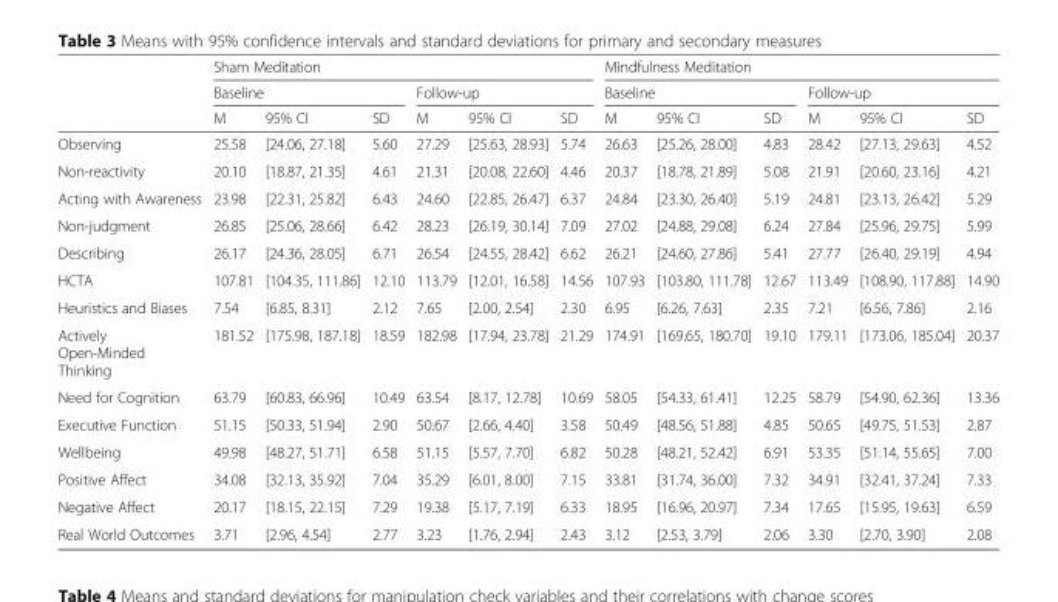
<table><thead><tr><td rowspan="3"></td><td colspan="6">Sham Meditation</td><td colspan="6">Mindfulness Meditation</td></tr><tr><td colspan="3">Baseline</td><td colspan="3">Follow-up</td><td colspan="3">Baseline</td><td colspan="3">Follow-up</td></tr><tr><td>M</td><td>95% CI</td><td>SD</td><td>M</td><td>95% CI</td><td>SD</td><td>M</td><td>95% CI</td><td>SD</td><td>M</td><td>95% CI</td><td>SD</td></tr></thead><tbody><tr><td>Observing</td><td>25.58</td><td>[24.06, 27.18]</td><td>5.60</td><td>27.29</td><td>[25.63, 28.93]</td><td>5.74</td><td>26.63</td><td>[25.26, 28.00]</td><td>4.83</td><td>28.42</td><td>[27.13, 29.63]</td><td>4.52</td></tr><tr><td>Non-reactivity</td><td>20.10</td><td>[18.87, 21.35]</td><td>4.61</td><td>21.31</td><td>[20.08, 22.60]</td><td>4.46</td><td>20.37</td><td>[18.78, 21.89]</td><td>5.08</td><td>21.91</td><td>[20.60, 23.16]</td><td>4.21</td></tr><tr><td>Acting with Awareness</td><td>23.98</td><td>[22.31, 25.82]</td><td>6.43</td><td>24.60</td><td>[22.85, 26.47]</td><td>6.37</td><td>24.84</td><td>[23.30, 26.40]</td><td>5.19</td><td>24.81</td><td>[23.13, 26.42]</td><td>5.29</td></tr><tr><td>Non-judgment</td><td>26.85</td><td>[25.06, 28.66]</td><td>6.42</td><td>28.23</td><td>[26.19, 30.14]</td><td>7.09</td><td>27.02</td><td>[24.88, 29.08]</td><td>6.24</td><td>27.84</td><td>[25.96, 29.75]</td><td>5.99</td></tr><tr><td>Describing</td><td>26.17</td><td>[24.36, 28.05]</td><td>6.71</td><td>26.54</td><td>[24.55, 28.42]</td><td>6.62</td><td>26.21</td><td>[24.60, 27.86]</td><td>5.41</td><td>27.77</td><td>[26.40, 29.19]</td><td>4.94</td></tr><tr><td>HCTA</td><td>107.81</td><td>[104.35, 111.86]</td><td>12.10</td><td>113.79</td><td>[12.01, 16.58]</td><td>14.56</td><td>107.93</td><td>[103.80, 111.78]</td><td>12.67</td><td>113.49</td><td>[108.90, 117.88]</td><td>14.90</td></tr><tr><td>Heuristics and Biases</td><td>7.54</td><td>[6.85, 8.31]</td><td>2.12</td><td>7.65</td><td>[2.00, 2.54]</td><td>2.30</td><td>6.95</td><td>[6.26, 7.63]</td><td>2.35</td><td>7.21</td><td>[6.56, 7.86]</td><td>2.16</td></tr><tr><td>Actively Open-Minded Thinking</td><td>181.52</td><td>[175.98, 187.18]</td><td>18.59</td><td>182.98</td><td>[17.94, 23.78]</td><td>21.29</td><td>174.91</td><td>[169.65, 180.70]</td><td>19.10</td><td>179.11</td><td>[173.06, 185.04]</td><td>20.37</td></tr><tr><td>Need for Cognition</td><td>63.79</td><td>[60.83, 66.96]</td><td>10.49</td><td>63.54</td><td>[8.17, 12.78]</td><td>10.69</td><td>58.05</td><td>[54.33, 61.41]</td><td>12.25</td><td>58.79</td><td>[54.90, 62.36]</td><td>13.36</td></tr><tr><td>Executive Function</td><td>51.15</td><td>[50.33, 51.94]</td><td>2.90</td><td>50.67</td><td>[2.66, 4.40]</td><td>3.58</td><td>50.49</td><td>[48.56, 51.88]</td><td>4.85</td><td>50.65</td><td>[49.75, 51.53]</td><td>2.87</td></tr><tr><td>Wellbeing</td><td>49.98</td><td>[48.27, 51.71]</td><td>6.58</td><td>51.15</td><td>[5.57, 7.70]</td><td>6.82</td><td>50.28</td><td>[48.21, 52.42]</td><td>6.91</td><td>53.35</td><td>[51.14, 55.65]</td><td>7.00</td></tr><tr><td>Positive Affect</td><td>34.08</td><td>[32.13, 35.92]</td><td>7.04</td><td>35.29</td><td>[6.01, 8.00]</td><td>7.15</td><td>33.81</td><td>[31.74, 36.00]</td><td>7.32</td><td>34.91</td><td>[32.41, 37.24]</td><td>7.33</td></tr><tr><td>Negative Affect</td><td>20.17</td><td>[18.15, 22.15]</td><td>7.29</td><td>19.38</td><td>[5.17, 7.19]</td><td>6.33</td><td>18.95</td><td>[16.96, 20.97]</td><td>7.34</td><td>17.65</td><td>[15.95, 19.63]</td><td>6.59</td></tr><tr><td>Real World Outcomes</td><td>3.71</td><td>[2.96, 4.54]</td><td>2.77</td><td>3.23</td><td>[1.76, 2.94]</td><td>2.43</td><td>3.12</td><td>[2.53, 3.79]</td><td>2.06</td><td>3.30</td><td>[2.70, 3.90]</td><td>2.08</td></tr></tbody></table>